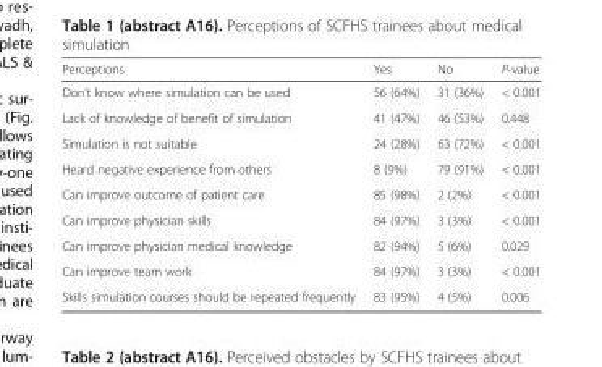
<table><thead><tr><td>Perceptions</td><td>Yes</td><td>No</td><td>P-value</td></tr></thead><tbody><tr><td>Don’t know where simulation can be used</td><td>56 (64%)</td><td>31 (36%)</td><td>&lt; 0.001</td></tr><tr><td>Lack of knowledge of benefit of simulation</td><td>41 (47%)</td><td>46 (53%)</td><td>0.448</td></tr><tr><td>Simulation is not suitable</td><td>24 (28%)</td><td>63 (72%)</td><td>&lt; 0.001</td></tr><tr><td>Heard negative experience from others</td><td>8 (9%)</td><td>79 (91%)</td><td>&lt; 0.001</td></tr><tr><td>Can improve outcome of patient care</td><td>85 (98%)</td><td>2 (2%)</td><td>&lt; 0.001</td></tr><tr><td>Can improve physician skills</td><td>84 (97%)</td><td>3 (3%)</td><td>&lt; 0.001</td></tr><tr><td>Can improve physician medical knowledge</td><td>82 (94%)</td><td>5 (6%)</td><td>0.029</td></tr><tr><td>Can improve team work</td><td>84 (97%)</td><td>3 (3%)</td><td>&lt; 0.001</td></tr><tr><td>Skills simulation courses should be repeated frequently</td><td>83 (95%)</td><td>4 (5%)</td><td>0.006</td></tr></tbody></table>